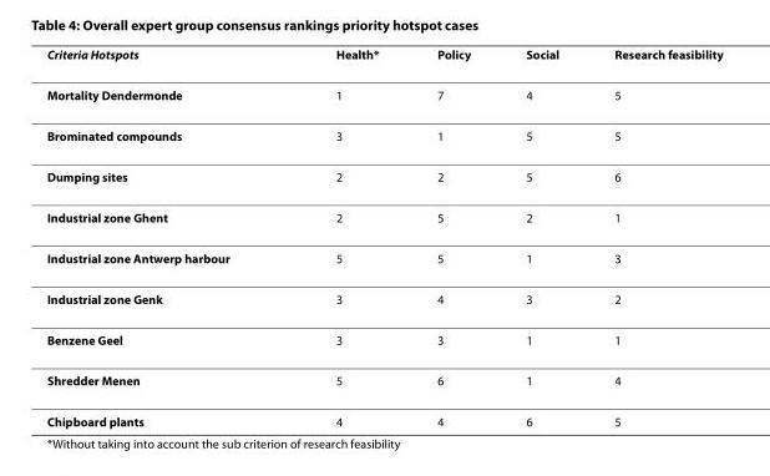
<table><thead><tr><td>Criteria Hotspots</td><td>Health*</td><td>Policy</td><td>Social</td><td>Research feasibility</td></tr></thead><tbody><tr><td>Mortality Dendermonde</td><td>1</td><td>7</td><td>4</td><td>5</td></tr><tr><td>Brominated compounds</td><td>3</td><td>1</td><td>5</td><td>5</td></tr><tr><td>Dumping sites</td><td>2</td><td>2</td><td>5</td><td>6</td></tr><tr><td>Industrial zone Ghent</td><td>2</td><td>5</td><td>2</td><td>1</td></tr><tr><td>Industrial zone Antwerp harbour</td><td>5</td><td>5</td><td>1</td><td>3</td></tr><tr><td>Industrial zone Genk</td><td>3</td><td>4</td><td>3</td><td>2</td></tr><tr><td>Benzene Geel</td><td>3</td><td>3</td><td>1</td><td>1</td></tr><tr><td>Shredder Menen</td><td>5</td><td>6</td><td>1</td><td>4</td></tr><tr><td>Chipboard plants</td><td>4</td><td>4</td><td>6</td><td>5</td></tr></tbody></table>